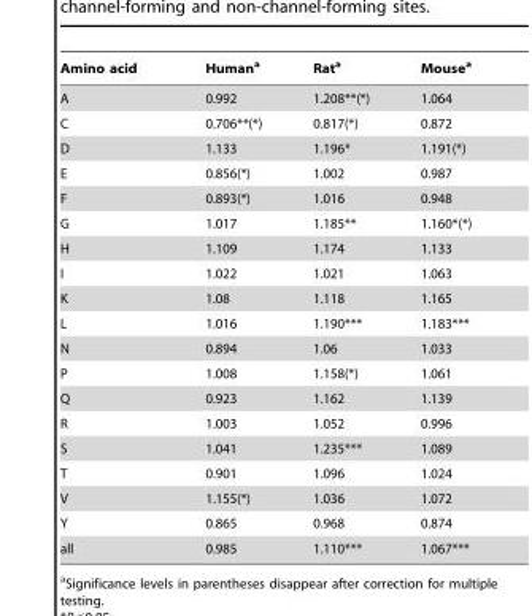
<table><thead><tr><td>Amino acid</td><td>Human<sup>a</sup></td><td>Rat<sup>a</sup></td><td>Mouse<sup>a</sup></td></tr></thead><tbody><tr><td>A</td><td>0.992</td><td>1.208**(*)</td><td>1.064</td></tr><tr><td>C</td><td>0.706**(*)</td><td>0.817(*)</td><td>0.872</td></tr><tr><td>D</td><td>1.133</td><td>1.196*</td><td>1.191(*)</td></tr><tr><td>E</td><td>0.856(*)</td><td>1.002</td><td>0.987</td></tr><tr><td>F</td><td>0.893(*)</td><td>1.016</td><td>0.948</td></tr><tr><td>G</td><td>1.017</td><td>1.185**</td><td>1.160*(*)</td></tr><tr><td>H</td><td>1.109</td><td>1.174</td><td>1.133</td></tr><tr><td>I</td><td>1.022</td><td>1.021</td><td>1.063</td></tr><tr><td>K</td><td>1.08</td><td>1.118</td><td>1.165</td></tr><tr><td>L</td><td>1.016</td><td>1.190***</td><td>1.183***</td></tr><tr><td>N</td><td>0.894</td><td>1.06</td><td>1.033</td></tr><tr><td>P</td><td>1.008</td><td>1.158(*)</td><td>1.061</td></tr><tr><td>Q</td><td>0.923</td><td>1.162</td><td>1.139</td></tr><tr><td>R</td><td>1.003</td><td>1.052</td><td>0.996</td></tr><tr><td>S</td><td>1.041</td><td>1.235***</td><td>1.089</td></tr><tr><td>T</td><td>0.901</td><td>1.096</td><td>1.024</td></tr><tr><td>V</td><td>1.155(*)</td><td>1.036</td><td>1.072</td></tr><tr><td>Y</td><td>0.865</td><td>0.968</td><td>0.874</td></tr><tr><td>all</td><td>0.985</td><td>1.110***</td><td>1.067***</td></tr></tbody></table>